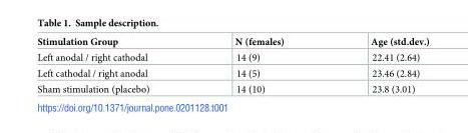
<table><thead><tr><td>Stimulation Group</td><td>N (females)</td><td>Age (std.dev.)</td></tr></thead><tbody><tr><td>Left anodal / right cathodal</td><td>14 (9)</td><td>22.41 (2.64)</td></tr><tr><td>Left cathodal / right anodal</td><td>14 (5)</td><td>23.46 (2.84)</td></tr><tr><td>Sham stimulation (placebo)</td><td>14 (10)</td><td>23.8 (3.01)</td></tr></tbody></table>